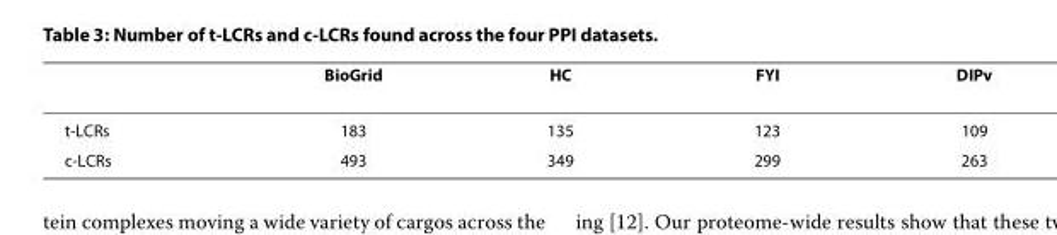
<table><thead><tr><td></td><td>BioGrid</td><td>HC</td><td>FYI</td><td>DIPv</td></tr></thead><tbody><tr><td>t-LCRs</td><td>183</td><td>135</td><td>123</td><td>109</td></tr><tr><td>c-LCRs</td><td>493</td><td>349</td><td>299</td><td>263</td></tr></tbody></table>